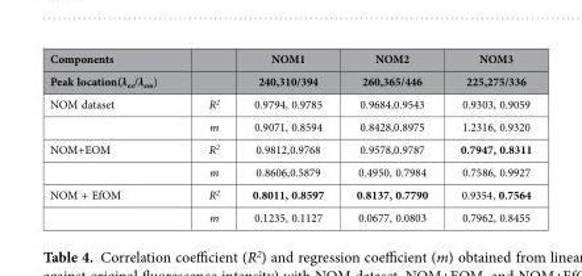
<table><thead><tr><td rowspan="2">Components Peak location(λ<sub>ex</sub>/λ<sub>em</sub>)</td><td rowspan="2"></td><td rowspan="2">NOM1 240,310/394</td><td rowspan="2">NOM2 260,365/446</td><td rowspan="2">NOM3 225,275/336</td></tr><tr></tr></thead><tbody><tr><td rowspan="2">NOM dataset</td><td>R<sup>2</sup></td><td>0.9794, 0.9785</td><td>0.9684,0.9543</td><td>0.9303, 0.9059</td></tr><tr><td>m</td><td>0.9071, 0.8594</td><td>0.8428,0.8975</td><td>1.2316, 0.9320</td></tr><tr><td rowspan="2">NOM+EOM</td><td>R<sup>2</sup></td><td>0.9812,0.9768</td><td>0.9578,0.9787</td><td>0.7947, 0.8311</td></tr><tr><td>m</td><td>0.8606,0.5879</td><td>0.4950, 0.7984</td><td>0.7586, 0.9927</td></tr><tr><td rowspan="2">NOM + EfOM</td><td>R<sup>2</sup></td><td>0.8011, 0.8597</td><td>0.8137, 0.7790</td><td>0.9354, 0.7564</td></tr><tr><td>m</td><td>0.1235, 0.1127</td><td>0.0677, 0.0803</td><td>0.7962, 0.8455</td></tr></tbody></table>